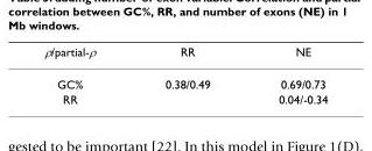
<table><thead><tr><td>ρ/partial-ρ</td><td>RR</td><td>NE</td></tr></thead><tbody><tr><td>GC%</td><td>0.38/0.49</td><td>0.69/0.73</td></tr><tr><td>RR</td><td></td><td>0.04/-0.34</td></tr></tbody></table>